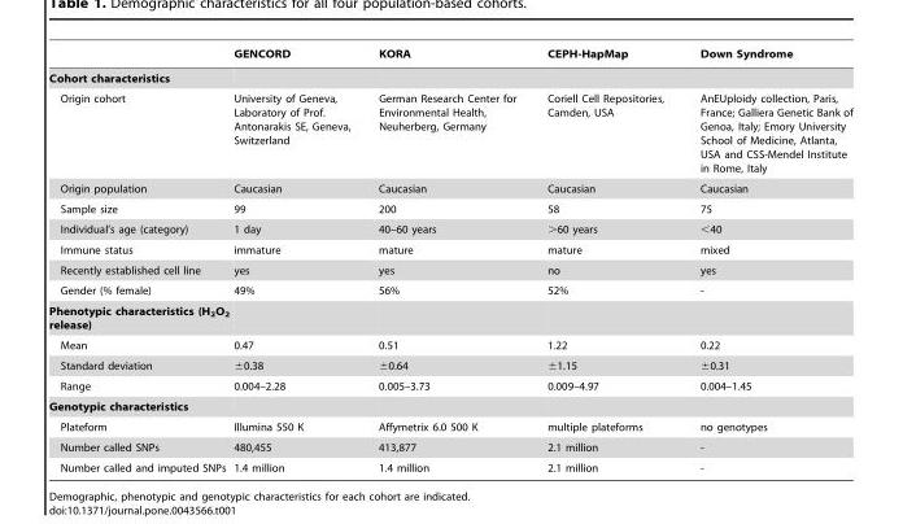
<table><thead><tr><td></td><td>GENCORD</td><td>KORA</td><td>CEPH-HapMap</td><td>Down Syndrome</td></tr></thead><tbody><tr><td colspan="5">Cohort characteristics</td></tr><tr><td>Origin cohort</td><td>University of Geneva, Laboratory of Prof. Antonarakis SE, Geneva, Switzerland</td><td>German Research Center for Environmental Health, Neuherberg, Germany</td><td>Coriell Cell Repositories, Camden, USA</td><td>AnEUploidy collection, Paris, France; Galliera Genetic Bank of Genoa, Italy; Emory University School of Medicine, Atlanta, USA and CSS-Mendel Institute in Rome, Italy</td></tr><tr><td>Origin population</td><td>Caucasian</td><td>Caucasian</td><td>Caucasian</td><td>Caucasian</td></tr><tr><td>Sample size</td><td>99</td><td>200</td><td>58</td><td>75</td></tr><tr><td>Individual’s age (category)</td><td>1 day</td><td>40–60 years</td><td>&gt;60 years</td><td>&lt;40</td></tr><tr><td>Immune status</td><td>immature</td><td>mature</td><td>mature</td><td>mixed</td></tr><tr><td>Recently established cell line</td><td>yes</td><td>yes</td><td>no</td><td>yes</td></tr><tr><td>Gender (% female)</td><td>49%</td><td>56%</td><td>52%</td><td>-</td></tr><tr><td colspan="5">Phenotypic characteristics (H<sub>2</sub>O<sub>2</sub> release)</td></tr><tr><td>Mean</td><td>0.47</td><td>0.51</td><td>1.22</td><td>0.22</td></tr><tr><td>Standard deviation</td><td>±0.38</td><td>±0.64</td><td>±1.15</td><td>±0.31</td></tr><tr><td>Range</td><td>0.004–2.28</td><td>0.005–3.73</td><td>0.009–4.97</td><td>0.004–1.45</td></tr><tr><td colspan="5">Genotypic characteristics</td></tr><tr><td>Plateform</td><td>Illumina 550 K</td><td>Affymetrix 6.0 500 K</td><td>multiple plateforms</td><td>no genotypes</td></tr><tr><td>Number called SNPs</td><td>480,455</td><td>413,877</td><td>2.1 million</td><td>-</td></tr><tr><td>Number called and imputed SNPs</td><td>1.4 million</td><td>1.4 million</td><td>2.1 million</td><td>-</td></tr></tbody></table>